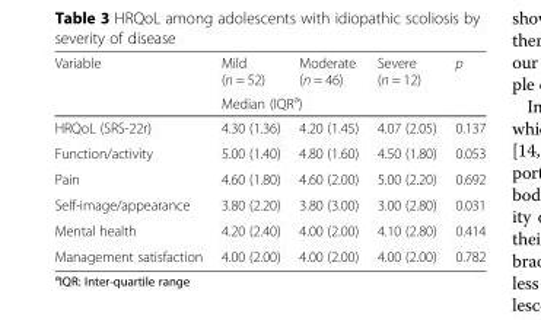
<table><thead><tr><td rowspan="2">Variable</td><td>Mild (n = 52)</td><td>Moderate (n = 46)</td><td>Severe (n = 12)</td><td rowspan="2">p</td></tr><tr><td colspan="3">Median (IQR<sup>a</sup>)</td></tr></thead><tbody><tr><td>HRQoL (SRS-22r)</td><td>4.30 (1.36)</td><td>4.20 (1.45)</td><td>4.07 (2.05)</td><td>0.137</td></tr><tr><td>Function/activity</td><td>5.00 (1.40)</td><td>4.80 (1.60)</td><td>4.50 (1.80)</td><td>0.053</td></tr><tr><td>Pain</td><td>4.60 (1.80)</td><td>4.60 (2.00)</td><td>5.00 (2.20)</td><td>0.692</td></tr><tr><td>Self-image/appearance</td><td>3.80 (2.20)</td><td>3.80 (3.00)</td><td>3.00 (2.80)</td><td>0.031</td></tr><tr><td>Mental health</td><td>4.20 (2.40)</td><td>4.00 (2.00)</td><td>4.10 (2.80)</td><td>0.414</td></tr><tr><td>Management satisfaction</td><td>4.00 (2.00)</td><td>4.00 (2.00)</td><td>4.00 (2.00)</td><td>0.782</td></tr></tbody></table>